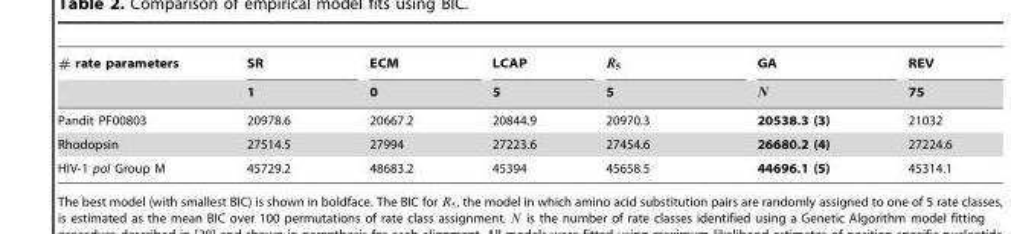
<table><thead><tr><td rowspan="2"># rate parameters</td><td rowspan="2">SR 1</td><td rowspan="2">ECM 0</td><td rowspan="2">LCAP 5</td><td rowspan="2">R5 5</td><td rowspan="2">GA N</td><td rowspan="2">REV 75</td></tr><tr></tr></thead><tbody><tr><td>Pandit PF00803</td><td>20978.6</td><td>20667.2</td><td>20844.9</td><td>20970.3</td><td>20538.3 (3)</td><td>21032</td></tr><tr><td>Rhodopsin</td><td>27514.5</td><td>27994</td><td>27223.6</td><td>27454.6</td><td>26680.2 (4)</td><td>27224.6</td></tr><tr><td>HIV-1 pol Group M</td><td>45729.2</td><td>48683.2</td><td>45394</td><td>45658.5</td><td>44696.1 (5)</td><td>45314.1</td></tr></tbody></table>